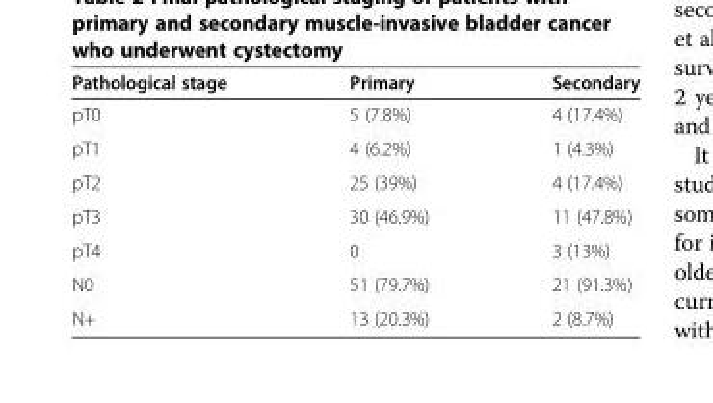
<table><thead><tr><td>Pathological stage</td><td>Primary</td><td>Secondary</td></tr></thead><tbody><tr><td>pT0</td><td>5 (7.8%)</td><td>4 (17.4%)</td></tr><tr><td>pT1</td><td>4 (6.2%)</td><td>1 (4.3%)</td></tr><tr><td>pT2</td><td>25 (39%)</td><td>4 (17.4%)</td></tr><tr><td>pT3</td><td>30 (46.9%)</td><td>11 (47.8%)</td></tr><tr><td>pT4</td><td>0</td><td>3 (13%)</td></tr><tr><td>N0</td><td>51 (79.7%)</td><td>21 (91.3%)</td></tr><tr><td>N+</td><td>13 (20.3%)</td><td>2 (8.7%)</td></tr></tbody></table>